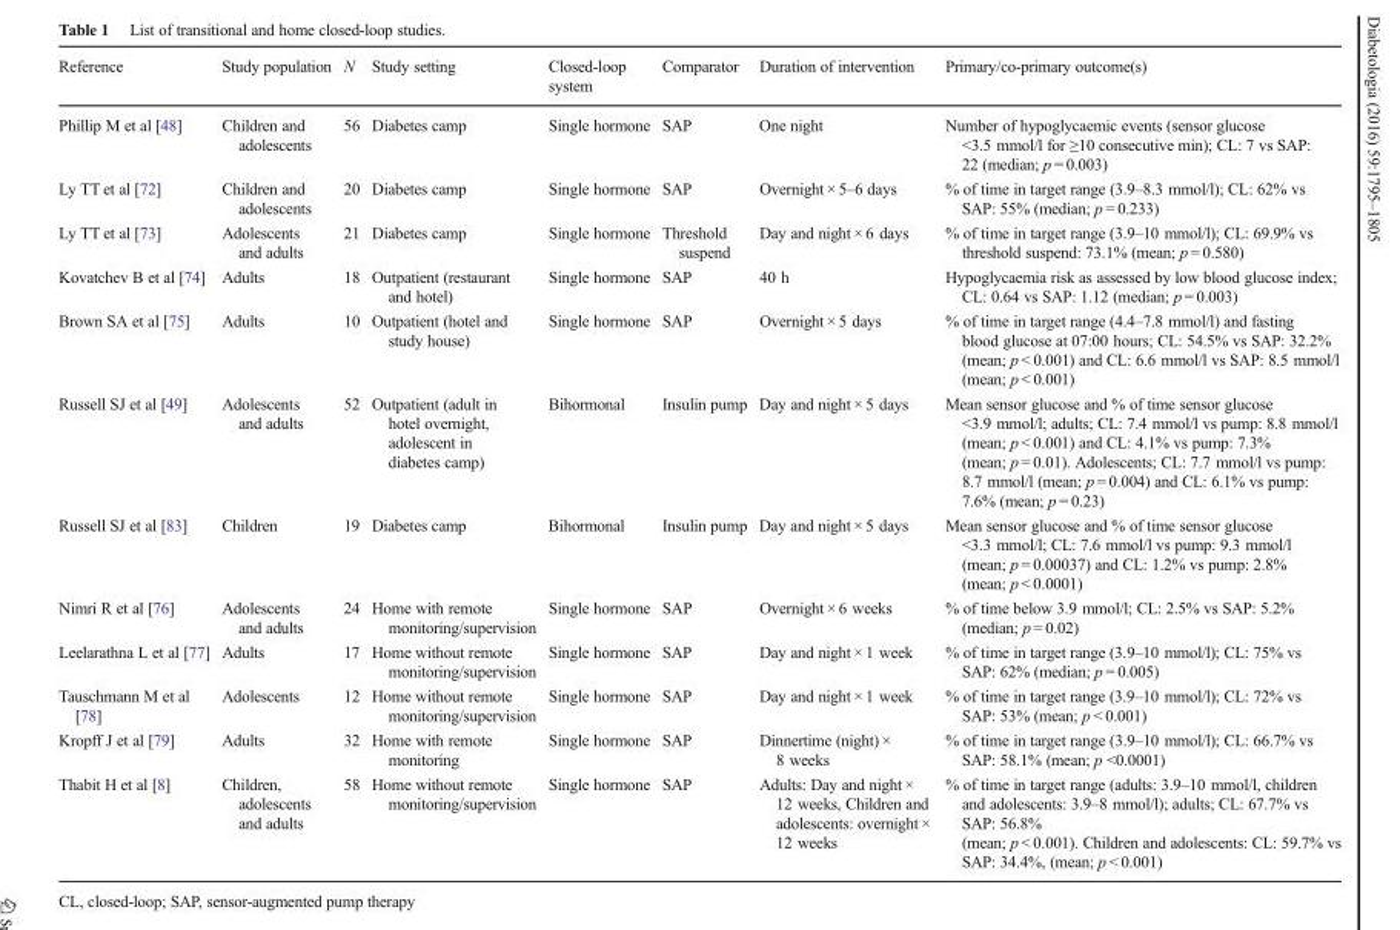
<table><thead><tr><td>Reference</td><td>Study population</td><td>N</td><td>Study setting</td><td>Closed-loop system</td><td>Comparator</td><td>Duration of intervention</td><td>Primary/co-primary outcome(s)</td></tr></thead><tbody><tr><td>Phillip M et al [48]</td><td>Children and adolescents</td><td>56</td><td>Diabetes camp</td><td>Single hormone</td><td>SAP</td><td>One night</td><td>Number of hypoglycaemic events (sensor glucose &lt;3.5 mmol/l for ≥10 consecutive min); CL: 7 vs SAP: 22 (median; p = 0.003)</td></tr><tr><td>Ly TT et al [72]</td><td>Children and adolescents</td><td>20</td><td>Diabetes camp</td><td>Single hormone</td><td>SAP</td><td>Overnight × 5–6 days</td><td>% of time in target range (3.9–8.3 mmol/l); CL: 62% vs SAP: 55% (median; p = 0.233)</td></tr><tr><td>Ly TT et al [73]</td><td>Adolescents and adults</td><td>21</td><td>Diabetes camp</td><td>Single hormone</td><td>Threshold suspend</td><td>Day and night × 6 days</td><td>% of time in target range (3.9–10 mmol/l); CL: 69.9% vs threshold suspend: 73.1% (mean; p = 0.580)</td></tr><tr><td>Kovatchev B et al [74]</td><td>Adults</td><td>18</td><td>Outpatient (restaurant and hotel)</td><td>Single hormone</td><td>SAP</td><td>40 h</td><td>Hypoglycaemia risk as assessed by low blood glucose index; CL: 0.64 vs SAP: 1.12 (median; p = 0.003)</td></tr><tr><td>Brown SA et al [75]</td><td>Adults</td><td>10</td><td>Outpatient (hotel and study house)</td><td>Single hormone</td><td>SAP</td><td>Overnight × 5 days</td><td>% of time in target range (4.4–7.8 mmol/l) and fasting blood glucose at 07:00 hours; CL: 54.5% vs SAP: 32.2% (mean; p &lt; 0.001) and CL: 6.6 mmol/l vs SAP: 8.5 mmol/l (mean; p &lt; 0.001)</td></tr><tr><td>Russell SJ et al [49]</td><td>Adolescents and adults</td><td>52</td><td>Outpatient (adult in hotel overnight, adolescent in diabetes camp)</td><td>Bihormonal</td><td>Insulin pump</td><td>Day and night × 5 days</td><td>Mean sensor glucose and % of time sensor glucose &lt;3.9 mmol/l; adults; CL: 7.4 mmol/l vs pump: 8.8 mmol/l (mean; p &lt; 0.001) and CL: 4.1% vs pump: 7.3% (mean; p = 0.01). Adolescents; CL: 7.7 mmol/l vs pump: 8.7 mmol/l (mean; p = 0.004) and CL: 6.1% vs pump: 7.6% (mean; p = 0.23)</td></tr><tr><td>Russell SJ et al [83]</td><td>Children</td><td>19</td><td>Diabetes camp</td><td>Bihormonal</td><td>Insulin pump</td><td>Day and night × 5 days</td><td>Mean sensor glucose and % of time sensor glucose &lt;3.3 mmol/l; CL: 7.6 mmol/l vs pump: 9.3 mmol/l (mean; p = 0.00037) and CL: 1.2% vs pump: 2.8% (mean; p &lt; 0.0001)</td></tr><tr><td>Nimri R et al [76]</td><td>Adolescents and adults</td><td>24</td><td>Home with remote monitoring/supervision</td><td>Single hormone</td><td>SAP</td><td>Overnight × 6 weeks</td><td>% of time below 3.9 mmol/l; CL: 2.5% vs SAP: 5.2% (median; p = 0.02)</td></tr><tr><td>Leelarathna L et al [77]</td><td>Adults</td><td>17</td><td>Home without remote monitoring/supervision</td><td>Single hormone</td><td>SAP</td><td>Day and night × 1 week</td><td>% of time in target range (3.9–10 mmol/l); CL: 75% vs SAP: 62% (median; p = 0.005)</td></tr><tr><td>Tauschmann M et al [78]</td><td>Adolescents</td><td>12</td><td>Home without remote monitoring/supervision</td><td>Single hormone</td><td>SAP</td><td>Day and night × 1 week</td><td>% of time in target range (3.9–10 mmol/l); CL: 72% vs SAP: 53% (mean; p &lt; 0.001)</td></tr><tr><td>Kropff J et al [79]</td><td>Adults</td><td>32</td><td>Home with remote monitoring</td><td>Single hormone</td><td>SAP</td><td>Dinnertime (night) × 8 weeks</td><td>% of time in target range (3.9–10 mmol/l); CL: 66.7% vs SAP: 58.1% (mean; p &lt;0.0001)</td></tr><tr><td>Thabit H et al [8]</td><td>Children, adolescents and adults</td><td>58</td><td>Home without remote monitoring/supervision</td><td>Single hormone</td><td>SAP</td><td>Adults: Day and night × 12 weeks, Children and adolescents: overnight × 12 weeks</td><td>% of time in target range (adults: 3.9–10 mmol/l, children and adolescents: 3.9–8 mmol/l); adults; CL: 67.7% vs SAP: 56.8% (mean; p &lt; 0.001). Children and adolescents: CL: 59.7% vs SAP: 34.4%, (mean; p &lt; 0.001)</td></tr></tbody></table>